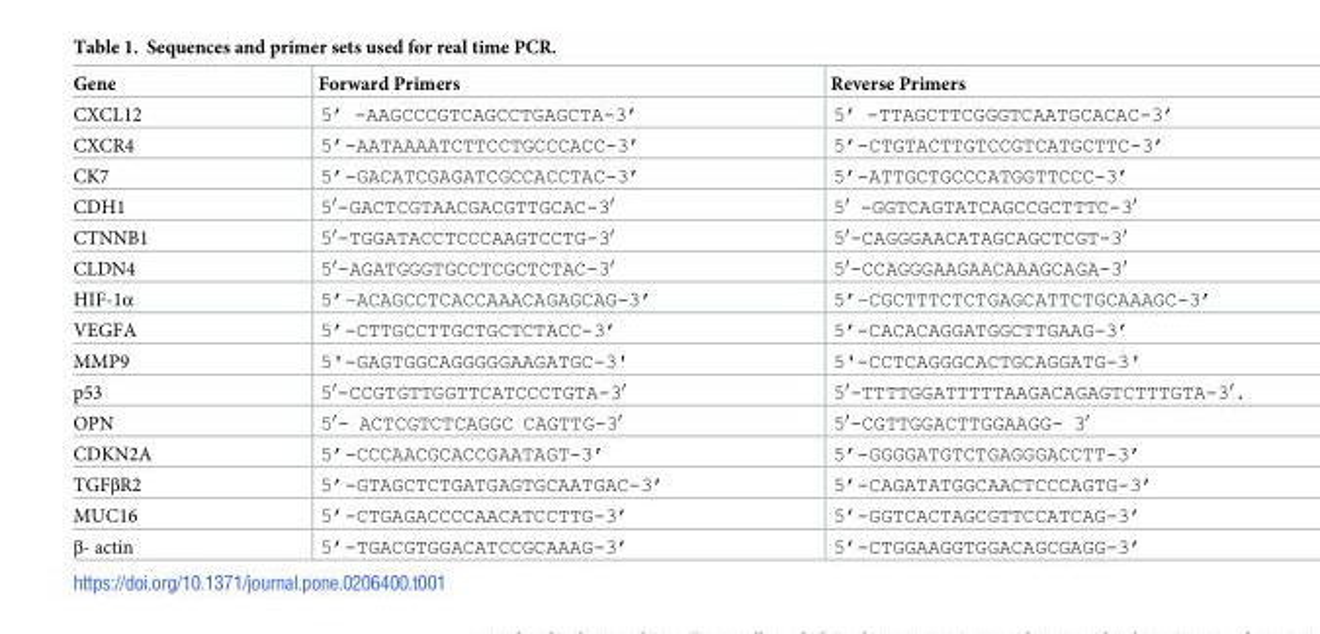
<table><thead><tr><td>Gene</td><td>Forward Primers</td><td>Reverse Primers</td></tr></thead><tbody><tr><td>CXCL12</td><td>5’ -AAGCCCGTCAGCCTGAGCTA-3’</td><td>5’ -TTAGCTTCGGGTCAATGCACAC-3’</td></tr><tr><td>CXCR4</td><td>5’-AATAAAATCTTCCTGCCCACC-3’</td><td>5’-CTGTACTTGTCCGTCATGCTTC-3’</td></tr><tr><td>CK7</td><td>5’-GACATCGAGATCGCCACCTAC-3’</td><td>5’-ATTGCTGCCCATGGTTCCC-3’</td></tr><tr><td>CDH1</td><td>5′-GACTCGTAACGACGTTGCAC-3′</td><td>5′ -GGTCAGTATCAGCCGCTTTC-3′</td></tr><tr><td>CTNNB1</td><td>5′-TGGATACCTCCCAAGTCCTG-3′</td><td>5′-CAGGGAACATAGCAGCTCGT-3′</td></tr><tr><td>CLDN4</td><td>5′-AGATGGGTGCCTCGCTCTAC-3′</td><td>5′-CCAGGGAAGAACAAAGCAGA-3′</td></tr><tr><td>HIF-1α</td><td>5’–ACAGCCTCACCAAACAGAGCAG-3’</td><td>5’–CGCTTTCTCTGAGCATTCTGCAAAGC-3’</td></tr><tr><td>VEGFA</td><td>5’-CTTGCCTTGCTGCTCTACC-3’</td><td>5’-CACACAGGATGGCTTGAAG-3’</td></tr><tr><td>MMP9</td><td>5&#x27;-GAGTGGCAGGGGGAAGATGC-3&#x27;</td><td>5&#x27;-CCTCAGGGCACTGCAGGATG-3&#x27;</td></tr><tr><td>p53</td><td>5′-CCGTGTTGGTTCATCCCTGTA-3′</td><td>5′-TTTTGGATTTTTAAGACAGAGTCTTTGTA-3′.</td></tr><tr><td>OPN</td><td>5′- ACTCGTCTCAGGC CAGTTG-3′</td><td>5′-CGTTGGACTTGGAAGG- 3′</td></tr><tr><td>CDKN2A</td><td>5’-CCCAACGCACCGAATAGT-3’</td><td>5’-GGGGATGTCTGAGGGACCTT-3’</td></tr><tr><td>TGFβR2</td><td>5’-GTAGCTCTGATGAGTGCAATGAC-3’</td><td>5’-CAGATATGGCAACTCCCAGTG-3’</td></tr><tr><td>MUC16</td><td>5’-CTGAGACCCCAACATCCTTG-3’</td><td>5’-GGTCACTAGCGTTCCATCAG-3’</td></tr><tr><td>β- actin</td><td>5’-TGACGTGGACATCCGCAAAG-3’</td><td>5’-CTGGAAGGTGGACAGCGAGG-3’</td></tr></tbody></table>